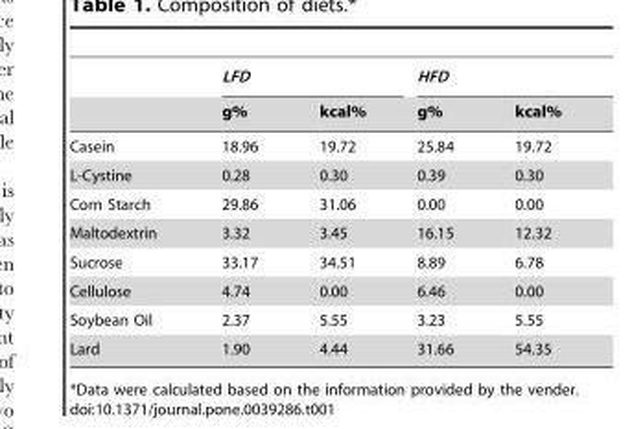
<table><thead><tr><td rowspan="2"></td><td colspan="2">LFD</td><td colspan="2">HFD</td></tr><tr><td>g%</td><td>kcal%</td><td>g%</td><td>kcal%</td></tr></thead><tbody><tr><td>Casein</td><td>18.96</td><td>19.72</td><td>25.84</td><td>19.72</td></tr><tr><td>L-Cystine</td><td>0.28</td><td>0.30</td><td>0.39</td><td>0.30</td></tr><tr><td>Corn Starch</td><td>29.86</td><td>31.06</td><td>0.00</td><td>0.00</td></tr><tr><td>Maltodextrin</td><td>3.32</td><td>3.45</td><td>16.15</td><td>12.32</td></tr><tr><td>Sucrose</td><td>33.17</td><td>34.51</td><td>8.89</td><td>6.78</td></tr><tr><td>Cellulose</td><td>4.74</td><td>0.00</td><td>6.46</td><td>0.00</td></tr><tr><td>Soybean Oil</td><td>2.37</td><td>5.55</td><td>3.23</td><td>5.55</td></tr><tr><td>Lard</td><td>1.90</td><td>4.44</td><td>31.66</td><td>54.35</td></tr></tbody></table>